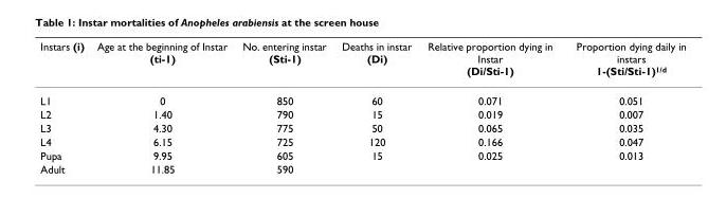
<table><thead><tr><td>Instars (i)</td><td>Age at the beginning of Instar (ti-1)</td><td>No. entering instar (Sti-1)</td><td>Deaths in instar (Di)</td><td>Relative proportion dying in Instar (Di/Sti-1)</td><td>Proportion dying daily in instars 1-(Sti/Sti-1)<sup>1/d</sup></td></tr></thead><tbody><tr><td>L1</td><td>0</td><td>850</td><td>60</td><td>0.071</td><td>0.051</td></tr><tr><td>L2</td><td>1.40</td><td>790</td><td>15</td><td>0.019</td><td>0.007</td></tr><tr><td>L3</td><td>4.30</td><td>775</td><td>50</td><td>0.065</td><td>0.035</td></tr><tr><td>L4</td><td>6.15</td><td>725</td><td>120</td><td>0.166</td><td>0.047</td></tr><tr><td>Pupa</td><td>9.95</td><td>605</td><td>15</td><td>0.025</td><td>0.013</td></tr><tr><td>Adult</td><td>11.85</td><td>590</td><td></td><td></td><td></td></tr></tbody></table>